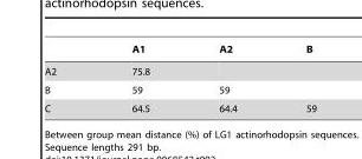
<table><thead><tr><td></td><td>A1</td><td>A2</td><td>B</td></tr></thead><tbody><tr><td>A2</td><td>75.8</td><td></td><td></td></tr><tr><td>B</td><td>59</td><td>59</td><td></td></tr><tr><td>C</td><td>64.5</td><td>64.4</td><td>59</td></tr></tbody></table>